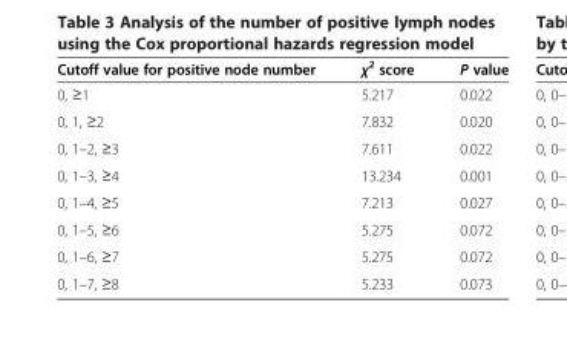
<table><thead><tr><td>Cutoff value for positive node number</td><td>χ<sup>2</sup> score</td><td>P value</td></tr></thead><tbody><tr><td>0, ≥1</td><td>5.217</td><td>0.022</td></tr><tr><td>0, 1, ≥2</td><td>7.832</td><td>0.020</td></tr><tr><td>0, 1–2, ≥3</td><td>7.611</td><td>0.022</td></tr><tr><td>0, 1–3, ≥4</td><td>13.234</td><td>0.001</td></tr><tr><td>0, 1–4, ≥5</td><td>7.213</td><td>0.027</td></tr><tr><td>0, 1–5, ≥6</td><td>5.275</td><td>0.072</td></tr><tr><td>0, 1–6, ≥7</td><td>5.275</td><td>0.072</td></tr><tr><td>0, 1–7, ≥8</td><td>5.233</td><td>0.073</td></tr></tbody></table>